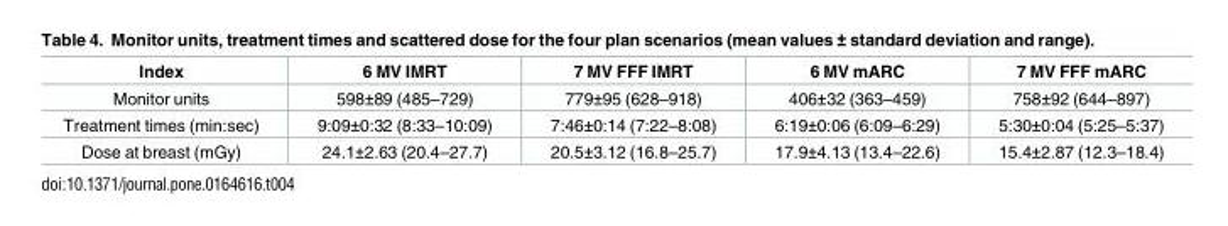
<table><thead><tr><td>Index</td><td>6 MV IMRT</td><td>7 MV FFF IMRT</td><td>6 MV mARC</td><td>7 MV FFF mARC</td></tr></thead><tbody><tr><td>Monitor units</td><td>598±89 (485–729)</td><td>779±95 (628–918)</td><td>406±32 (363–459)</td><td>758±92 (644–897)</td></tr><tr><td>Treatment times (min:sec)</td><td>9:09±0:32 (8:33–10:09)</td><td>7:46±0:14 (7:22–8:08)</td><td>6:19±0:06 (6:09–6:29)</td><td>5:30±0:04 (5:25–5:37)</td></tr><tr><td>Dose at breast (mGy)</td><td>24.1±2.63 (20.4–27.7)</td><td>20.5±3.12 (16.8–25.7)</td><td>17.9±4.13 (13.4–22.6)</td><td>15.4±2.87 (12.3–18.4)</td></tr></tbody></table>